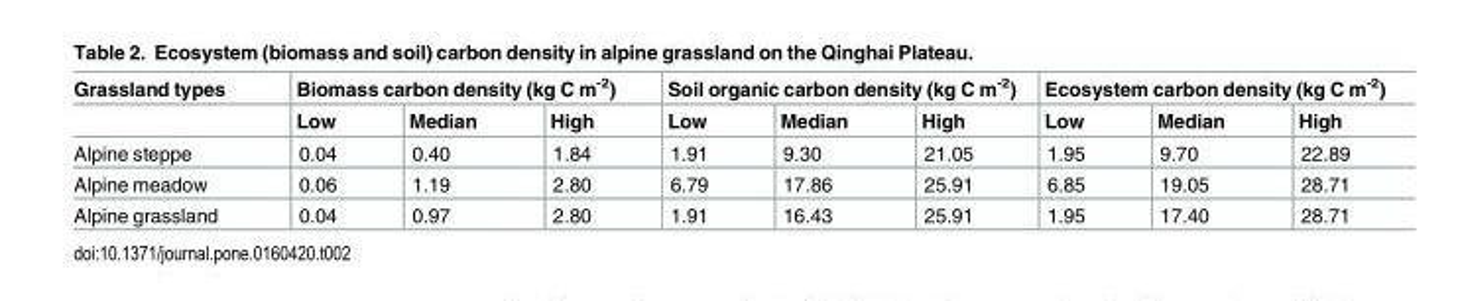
<table><thead><tr><td rowspan="2">Grassland types</td><td colspan="3">Biomass carbon density (kg C m<sup>-2</sup>)</td><td colspan="3">Soil organic carbon density (kg C m<sup>-2</sup>)</td><td colspan="3">Ecosystem carbon density (kg C m<sup>-2</sup>)</td></tr><tr><td>Low</td><td>Median</td><td>High</td><td>Low</td><td>Median</td><td>High</td><td>Low</td><td>Median</td><td>High</td></tr></thead><tbody><tr><td>Alpine steppe</td><td>0.04</td><td>0.40</td><td>1.84</td><td>1.91</td><td>9.30</td><td>21.05</td><td>1.95</td><td>9.70</td><td>22.89</td></tr><tr><td>Alpine meadow</td><td>0.06</td><td>1.19</td><td>2.80</td><td>6.79</td><td>17.86</td><td>25.91</td><td>6.85</td><td>19.05</td><td>28.71</td></tr><tr><td>Alpine grassland</td><td>0.04</td><td>0.97</td><td>2.80</td><td>1.91</td><td>16.43</td><td>25.91</td><td>1.95</td><td>17.40</td><td>28.71</td></tr></tbody></table>